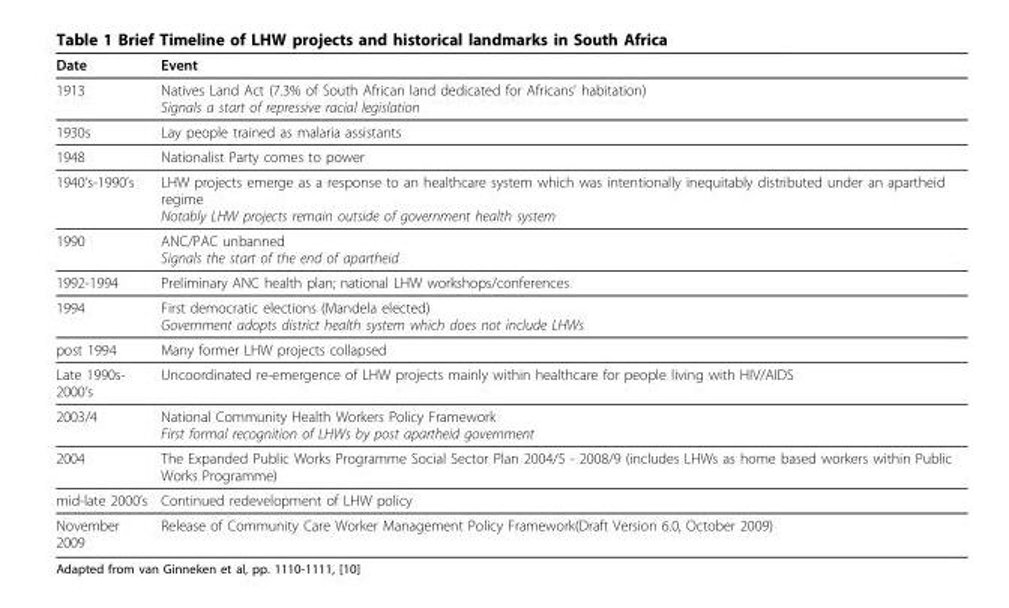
<table><thead><tr><td>Date</td><td>Event</td></tr></thead><tbody><tr><td>1913</td><td>Natives Land Act (7.3% of South African land dedicated for Africans’ habitation) Signals a start of repressive racial legislation</td></tr><tr><td>1930s</td><td>Lay people trained as malaria assistants</td></tr><tr><td>1948</td><td>Nationalist Party comes to power</td></tr><tr><td>1940’s-1990’s</td><td>LHW projects emerge as a response to an healthcare system which was intentionally inequitably distributed under an apartheid regime Notably LHW projects remain outside of government health system</td></tr><tr><td>1990</td><td>ANC/PAC unbanned Signals the start of the end of apartheid</td></tr><tr><td>1992-1994</td><td>Preliminary ANC health plan; national LHW workshops/conferences</td></tr><tr><td>1994</td><td>First democratic elections (Mandela elected) Government adopts district health system which does not include LHWs</td></tr><tr><td>post 1994</td><td>Many former LHW projects collapsed</td></tr><tr><td>Late 1990s- 2000’s</td><td>Uncoordinated re-emergence of LHW projects mainly within healthcare for people living with HIV/AIDS</td></tr><tr><td>2003/4</td><td>National Community Health Workers Policy Framework First formal recognition of LHWs by post apartheid government</td></tr><tr><td>2004</td><td>The Expanded Public Works Programme Social Sector Plan 2004/5 - 2008/9 (includes LHWs as home based workers within Public Works Programme)</td></tr><tr><td>mid-late 2000’s</td><td>Continued redevelopment of LHW policy</td></tr><tr><td>November 2009</td><td>Release of Community Care Worker Management Policy Framework(Draft Version 6.0, October 2009)</td></tr></tbody></table>